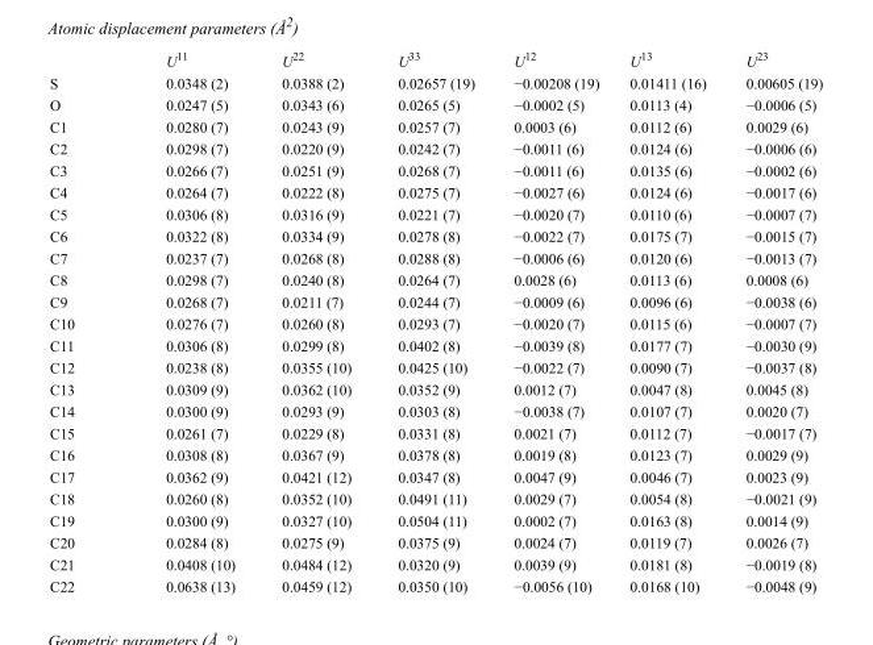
<table><thead><tr><td></td><td>U<sup>11</sup></td><td>U<sup>22</sup></td><td>U<sup>33</sup></td><td>U<sup>12</sup></td><td>U<sup>13</sup></td><td>U<sup>23</sup></td></tr></thead><tbody><tr><td>S</td><td>0.0348 (2)</td><td>0.0388 (2)</td><td>0.02657 (19)</td><td>−0.00208 (19)</td><td>0.01411 (16)</td><td>0.00605 (19)</td></tr><tr><td>O</td><td>0.0247 (5)</td><td>0.0343 (6)</td><td>0.0265 (5)</td><td>−0.0002 (5)</td><td>0.0113 (4)</td><td>−0.0006 (5)</td></tr><tr><td>C1</td><td>0.0280 (7)</td><td>0.0243 (9)</td><td>0.0257 (7)</td><td>0.0003 (6)</td><td>0.0112 (6)</td><td>0.0029 (6)</td></tr><tr><td>C2</td><td>0.0298 (7)</td><td>0.0220 (9)</td><td>0.0242 (7)</td><td>−0.0011 (6)</td><td>0.0124 (6)</td><td>−0.0006 (6)</td></tr><tr><td>C3</td><td>0.0266 (7)</td><td>0.0251 (9)</td><td>0.0268 (7)</td><td>−0.0011 (6)</td><td>0.0135 (6)</td><td>−0.0002 (6)</td></tr><tr><td>C4</td><td>0.0264 (7)</td><td>0.0222 (8)</td><td>0.0275 (7)</td><td>−0.0027 (6)</td><td>0.0124 (6)</td><td>−0.0017 (6)</td></tr><tr><td>C5</td><td>0.0306 (8)</td><td>0.0316 (9)</td><td>0.0221 (7)</td><td>−0.0020 (7)</td><td>0.0110 (6)</td><td>−0.0007 (7)</td></tr><tr><td>C6</td><td>0.0322 (8)</td><td>0.0334 (9)</td><td>0.0278 (8)</td><td>−0.0022 (7)</td><td>0.0175 (7)</td><td>−0.0015 (7)</td></tr><tr><td>C7</td><td>0.0237 (7)</td><td>0.0268 (8)</td><td>0.0288 (8)</td><td>−0.0006 (6)</td><td>0.0120 (6)</td><td>−0.0013 (7)</td></tr><tr><td>C8</td><td>0.0298 (7)</td><td>0.0240 (8)</td><td>0.0264 (7)</td><td>0.0028 (6)</td><td>0.0113 (6)</td><td>0.0008 (6)</td></tr><tr><td>C9</td><td>0.0268 (7)</td><td>0.0211 (7)</td><td>0.0244 (7)</td><td>−0.0009 (6)</td><td>0.0096 (6)</td><td>−0.0038 (6)</td></tr><tr><td>C10</td><td>0.0276 (7)</td><td>0.0260 (8)</td><td>0.0293 (7)</td><td>−0.0020 (7)</td><td>0.0115 (6)</td><td>−0.0007 (7)</td></tr><tr><td>C11</td><td>0.0306 (8)</td><td>0.0299 (8)</td><td>0.0402 (8)</td><td>−0.0039 (8)</td><td>0.0177 (7)</td><td>−0.0030 (9)</td></tr><tr><td>C12</td><td>0.0238 (8)</td><td>0.0355 (10)</td><td>0.0425 (10)</td><td>−0.0022 (7)</td><td>0.0090 (7)</td><td>−0.0037 (8)</td></tr><tr><td>C13</td><td>0.0309 (9)</td><td>0.0362 (10)</td><td>0.0352 (9)</td><td>0.0012 (7)</td><td>0.0047 (8)</td><td>0.0045 (8)</td></tr><tr><td>C14</td><td>0.0300 (9)</td><td>0.0293 (9)</td><td>0.0303 (8)</td><td>−0.0038 (7)</td><td>0.0107 (7)</td><td>0.0020 (7)</td></tr><tr><td>C15</td><td>0.0261 (7)</td><td>0.0229 (8)</td><td>0.0331 (8)</td><td>0.0021 (7)</td><td>0.0112 (7)</td><td>−0.0017 (7)</td></tr><tr><td>C16</td><td>0.0308 (8)</td><td>0.0367 (9)</td><td>0.0378 (8)</td><td>0.0019 (8)</td><td>0.0123 (7)</td><td>0.0029 (9)</td></tr><tr><td>C17</td><td>0.0362 (9)</td><td>0.0421 (12)</td><td>0.0347 (8)</td><td>0.0047 (9)</td><td>0.0046 (7)</td><td>0.0023 (9)</td></tr><tr><td>C18</td><td>0.0260 (8)</td><td>0.0352 (10)</td><td>0.0491 (11)</td><td>0.0029 (7)</td><td>0.0054 (8)</td><td>−0.0021 (9)</td></tr><tr><td>C19</td><td>0.0300 (9)</td><td>0.0327 (10)</td><td>0.0504 (11)</td><td>0.0002 (7)</td><td>0.0163 (8)</td><td>0.0014 (9)</td></tr><tr><td>C20</td><td>0.0284 (8)</td><td>0.0275 (9)</td><td>0.0375 (9)</td><td>0.0024 (7)</td><td>0.0119 (7)</td><td>0.0026 (7)</td></tr><tr><td>C21</td><td>0.0408 (10)</td><td>0.0484 (12)</td><td>0.0320 (9)</td><td>0.0039 (9)</td><td>0.0181 (8)</td><td>−0.0019 (8)</td></tr><tr><td>C22</td><td>0.0638 (13)</td><td>0.0459 (12)</td><td>0.0350 (10)</td><td>−0.0056 (10)</td><td>0.0168 (10)</td><td>−0.0048 (9)</td></tr></tbody></table>